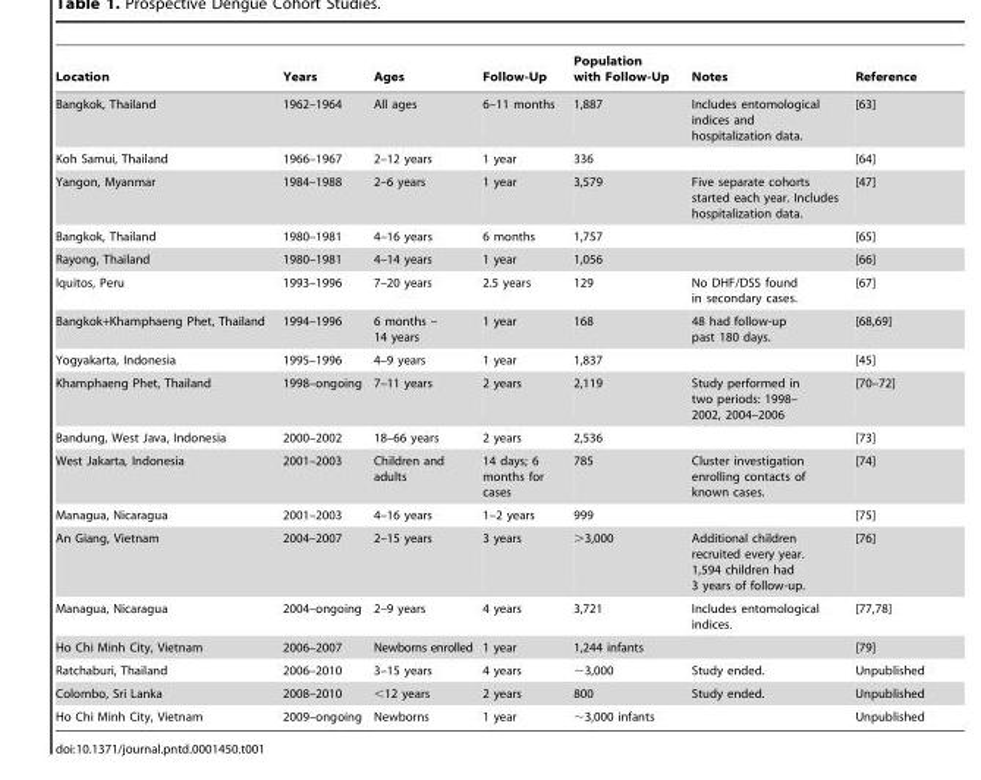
<table><thead><tr><td>Location</td><td>Years</td><td>Ages</td><td>Follow-Up</td><td>Population with Follow-Up</td><td>Notes</td><td>Reference</td></tr></thead><tbody><tr><td>Bangkok, Thailand</td><td>1962–1964</td><td>All ages</td><td>6–11 months</td><td>1,887</td><td>Includes entomological indices and hospitalization data.</td><td>[63]</td></tr><tr><td>Koh Samui, Thailand</td><td>1966–1967</td><td>2–12 years</td><td>1 year</td><td>336</td><td></td><td>[64]</td></tr><tr><td>Yangon, Myanmar</td><td>1984–1988</td><td>2–6 years</td><td>1 year</td><td>3,579</td><td>Five separate cohorts started each year. Includes hospitalization data.</td><td>[47]</td></tr><tr><td>Bangkok, Thailand</td><td>1980–1981</td><td>4–16 years</td><td>6 months</td><td>1,757</td><td></td><td>[65]</td></tr><tr><td>Rayong, Thailand</td><td>1980–1981</td><td>4–14 years</td><td>1 year</td><td>1,056</td><td></td><td>[66]</td></tr><tr><td>Iquitos, Peru</td><td>1993–1996</td><td>7–20 years</td><td>2.5 years</td><td>129</td><td>No DHF/DSS found in secondary cases.</td><td>[67]</td></tr><tr><td>Bangkok+Khamphaeng Phet, Thailand</td><td>1994–1996</td><td>6 months – 14 years</td><td>1 year</td><td>168</td><td>48 had follow-up past 180 days.</td><td>[68,69]</td></tr><tr><td>Yogyakarta, Indonesia</td><td>1995–1996</td><td>4–9 years</td><td>1 year</td><td>1,837</td><td></td><td>[45]</td></tr><tr><td>Khamphaeng Phet, Thailand</td><td>1998–ongoing</td><td>7–11 years</td><td>2 years</td><td>2,119</td><td>Study performed in two periods: 1998– 2002, 2004–2006</td><td>[70–72]</td></tr><tr><td>Bandung, West Java, Indonesia</td><td>2000–2002</td><td>18–66 years</td><td>2 years</td><td>2,536</td><td></td><td>[73]</td></tr><tr><td>West Jakarta, Indonesia</td><td>2001–2003</td><td>Children and adults</td><td>14 days; 6 months for cases</td><td>785</td><td>Cluster investigation enrolling contacts of known cases.</td><td>[74]</td></tr><tr><td>Managua, Nicaragua</td><td>2001–2003</td><td>4–16 years</td><td>1–2 years</td><td>999</td><td></td><td>[75]</td></tr><tr><td>An Giang, Vietnam</td><td>2004–2007</td><td>2–15 years</td><td>3 years</td><td>&gt;3,000</td><td>Additional children recruited every year. 1,594 children had 3 years of follow-up.</td><td>[76]</td></tr><tr><td>Managua, Nicaragua</td><td>2004–ongoing</td><td>2–9 years</td><td>4 years</td><td>3,721</td><td>Includes entomological indices.</td><td>[77,78]</td></tr><tr><td>Ho Chi Minh City, Vietnam</td><td>2006–2007</td><td>Newborns enrolled</td><td>1 year</td><td>1,244 infants</td><td></td><td>[79]</td></tr><tr><td>Ratchaburi, Thailand</td><td>2006–2010</td><td>3–15 years</td><td>4 years</td><td>∼3,000</td><td>Study ended.</td><td>Unpublished</td></tr><tr><td>Colombo, Sri Lanka</td><td>2008–2010</td><td>&lt;12 years</td><td>2 years</td><td>800</td><td>Study ended.</td><td>Unpublished</td></tr><tr><td>Ho Chi Minh City, Vietnam</td><td>2009–ongoing</td><td>Newborns</td><td>1 year</td><td>∼3,000 infants</td><td></td><td>Unpublished</td></tr></tbody></table>